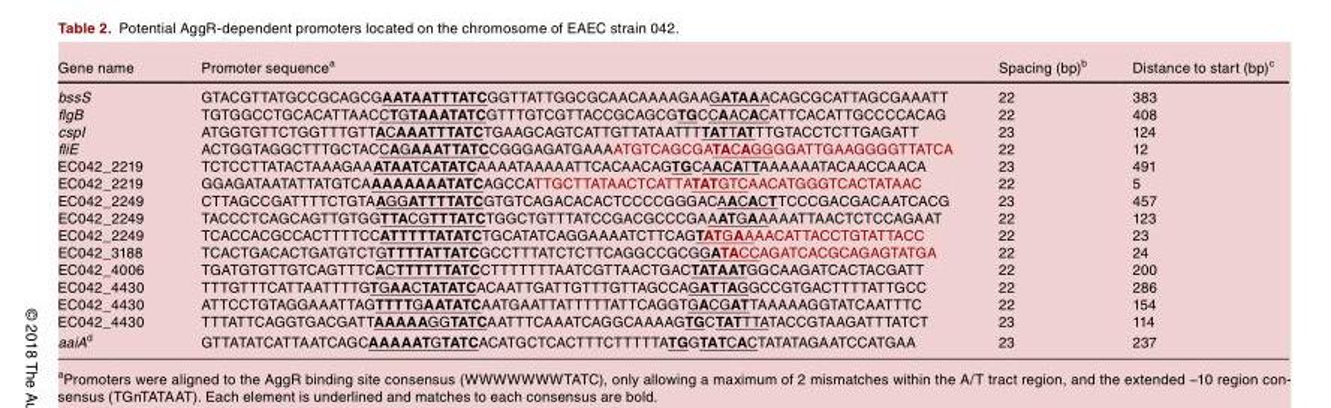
<table><thead><tr><td>Gene name</td><td>Promoter sequence<sup>a</sup></td><td>Spacing (bp)<sup>b</sup></td><td>Distance to start (bp)<sup>c</sup></td></tr></thead><tbody><tr><td>bssS</td><td>GTACGTTATGCCGCAGCGAATAATTTATCGGTTATTGGCGCAACAAAA GAAGATAAACAGCGCATTAGCGAAATT</td><td>22</td><td>383</td></tr><tr><td>flgB</td><td>TGTGGCCTGCACATTAACCTGTAAATATCGTTTGTCGTTACCGCAG CGTGCCAACACATTCACATTGCCCCACAG</td><td>22</td><td>408</td></tr><tr><td>cspI</td><td>ATGGTGTTCTGGTTTGTTACAAATTTATCTGAAGCAGTCATTGTTATAAT TTTATTATTTGTACCTCTTGAGATT</td><td>23</td><td>124</td></tr><tr><td>fliE</td><td>ACTGGTAGGCTTTGCTACCAGAAATTATCCGGGAGATGAAAATGTCA GCGATACAGGGGATTGAAGGGGTTATCA</td><td>22</td><td>12</td></tr><tr><td>EC042_2219</td><td>TCTCCTTATACTAAAGAAATAATCATATCAAAATAAAAATTCACAACAG TGCAACATTAAAAAATACAACCAACA</td><td>23</td><td>491</td></tr><tr><td>EC042_2219</td><td>GGAGATAATATTATGTCAAAAAAAATATCAGCCATTGCTTATAACTCATT ATATGTCAACATGGGTCACTATAAC</td><td>22</td><td>5</td></tr><tr><td>EC042_2249</td><td>CTTAGCCGATTTTCTGTAAGGATTTTATCGTGTCAGACACACTCCCCGG GACAACACTTCCCGACGACAATCACG</td><td>23</td><td>457</td></tr><tr><td>EC042_2249</td><td>TACCCTCAGCAGTTGTGGTTACGTTTATCTGGCTGTTTATCCGACGC CCGAAATGAAAAATTAACTCTCCAGAAT</td><td>22</td><td>123</td></tr><tr><td>EC042_2249</td><td>TCACCACGCCACTTTTCCATTTTTATATCTGCATATCAGGAAAATCTTCAG TATGAAAACATTACCTGTATTACC</td><td>22</td><td>23</td></tr><tr><td>EC042_3188</td><td>TCACTGACACTGATGTCTGTTTTATTATCGCCTTTATCTCTTCAGGCCG CGGATACCAGATCACGCAGAGTATGA</td><td>22</td><td>24</td></tr><tr><td>EC042_4006</td><td>TGATGTGTTGTCAGTTTCACTTTTTTATCCTTTTTTTAATCGTTAACTGACTAT AATGGCAAGATCACTACGATT</td><td>22</td><td>200</td></tr><tr><td>EC042_4430</td><td>TTTGTTTCATTAATTTTGTGAACTATATCACAATTGATTGTTTGTTAGCCAGA TTAGGCCGTGACTTTTATTGCC</td><td>22</td><td>286</td></tr><tr><td>EC042_4430</td><td>ATTCCTGTAGGAAATTAGTTTTGAATATCAATGAATTATTTTTATTCAGGTGAC GATTAAAAAGGTATCAATTTC</td><td>22</td><td>154</td></tr><tr><td>EC042_4430</td><td>TTTATTCAGGTGACGATTAAAAAGGTATCAATTTCAAATCAGGCAAAAGTG CTATTTATACCGTAAGATTTATCT</td><td>23</td><td>114</td></tr><tr><td>aaiAd</td><td>GTTATATCATTAATCAGCAAAAATGTATCACATGCTCACTTTCTTTTTATGGTA TCACTATATAGAATCCATGAA</td><td>23</td><td>237</td></tr></tbody></table>